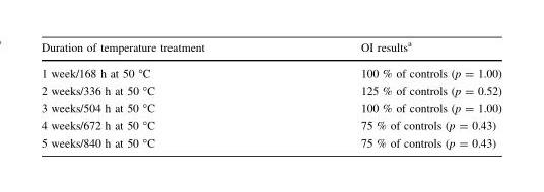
<table><thead><tr><td>Duration of temperature treatment</td><td>OI results<sup>a</sup></td></tr></thead><tbody><tr><td>1 week/168 h at 50 °C</td><td>100 % of controls (p = 1.00)</td></tr><tr><td>2 weeks/336 h at 50 °C</td><td>125 % of controls (p = 0.52)</td></tr><tr><td>3 weeks/504 h at 50 °C</td><td>100 % of controls (p = 1.00)</td></tr><tr><td>4 weeks/672 h at 50 °C</td><td>75 % of controls (p = 0.43)</td></tr><tr><td>5 weeks/840 h at 50 °C</td><td>75 % of controls (p = 0.43)</td></tr></tbody></table>